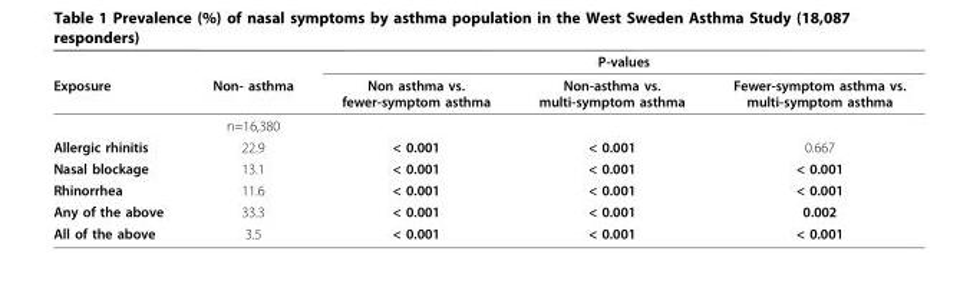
<table><thead><tr><td rowspan="2">Exposure</td><td rowspan="2">Non- asthma</td><td colspan="3">P-values</td></tr><tr><td>Non asthma vs. fewer-symptom asthma</td><td>Non-asthma vs. multi-symptom asthma</td><td>Fewer-symptom asthma vs. multi-symptom asthma</td></tr></thead><tbody><tr><td></td><td>n=16,380</td><td></td><td></td><td></td></tr><tr><td>Allergic rhinitis</td><td>22.9</td><td>&lt; 0.001</td><td>&lt; 0.001</td><td>0.667</td></tr><tr><td>Nasal blockage</td><td>13.1</td><td>&lt; 0.001</td><td>&lt; 0.001</td><td>&lt; 0.001</td></tr><tr><td>Rhinorrhea</td><td>11.6</td><td>&lt; 0.001</td><td>&lt; 0.001</td><td>&lt; 0.001</td></tr><tr><td>Any of the above</td><td>33.3</td><td>&lt; 0.001</td><td>&lt; 0.001</td><td>0.002</td></tr><tr><td>All of the above</td><td>3.5</td><td>&lt; 0.001</td><td>&lt; 0.001</td><td>&lt; 0.001</td></tr></tbody></table>